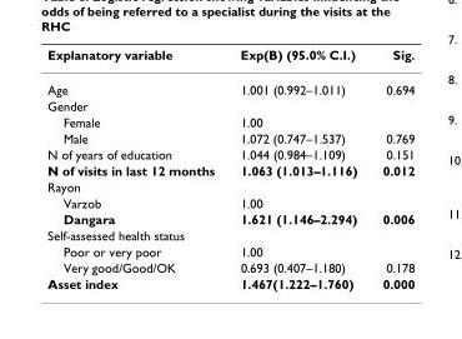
<table><thead><tr><td>Explanatory variable</td><td>Exp(B) (95.0% C.I.)</td><td>Sig.</td></tr></thead><tbody><tr><td>Age</td><td>1.001 (0.992–1.011)</td><td>0.694</td></tr><tr><td colspan="3">Gender</td></tr><tr><td>Female</td><td>1.00</td><td></td></tr><tr><td>Male</td><td>1.072 (0.747–1.537)</td><td>0.769</td></tr><tr><td>N of years of education</td><td>1.044 (0.984–1.109)</td><td>0.151</td></tr><tr><td>N of visits in last 12 months</td><td>1.063 (1.013–1.116)</td><td>0.012</td></tr><tr><td colspan="3">Rayon</td></tr><tr><td>Varzob</td><td>1.00</td><td></td></tr><tr><td>Dangara</td><td>1.621 (1.146–2.294)</td><td>0.006</td></tr><tr><td colspan="3">Self-assessed health status</td></tr><tr><td>Poor or very poor</td><td>1.00</td><td></td></tr><tr><td>Very good/Good/OK</td><td>0.693 (0.407–1.180)</td><td>0.178</td></tr><tr><td>Asset index</td><td>1.467(1.222–1.760)</td><td>0.000</td></tr></tbody></table>